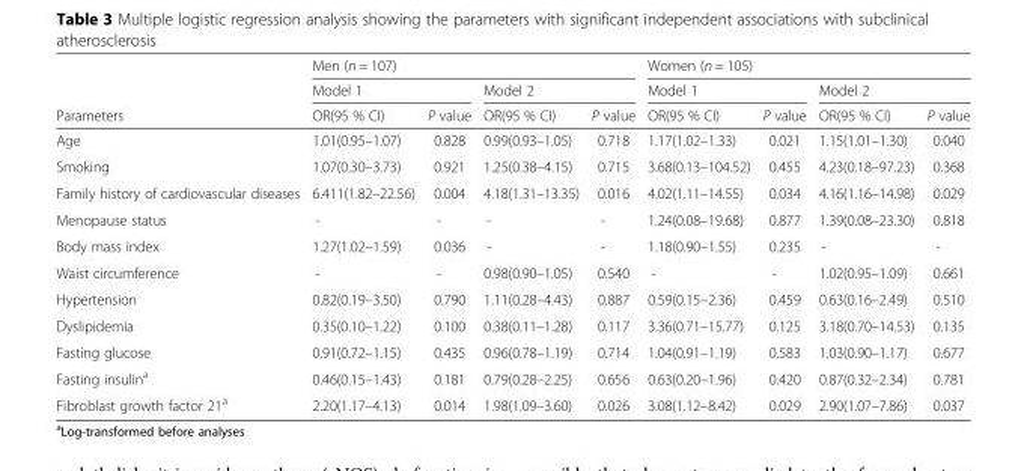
<table><thead><tr><td rowspan="3">Parameters</td><td colspan="4">Men (n = 107)</td><td colspan="4">Women (n = 105)</td></tr><tr><td colspan="2">Model 1</td><td colspan="2">Model 2</td><td colspan="2">Model 1</td><td colspan="2">Model 2</td></tr><tr><td>OR(95 % CI)</td><td>P value</td><td>OR(95 % CI)</td><td>P value</td><td>OR(95 % CI)</td><td>P value</td><td>OR(95 % CI)</td><td>P value</td></tr></thead><tbody><tr><td>Age</td><td>1.01(0.95–1.07)</td><td>0.828</td><td>0.99(0.93–1.05)</td><td>0.718</td><td>1.17(1.02–1.33)</td><td>0.021</td><td>1.15(1.01–1.30)</td><td>0.040</td></tr><tr><td>Smoking</td><td>1.07(0.30–3.73)</td><td>0.921</td><td>1.25(0.38–4.15)</td><td>0.715</td><td>3.68(0.13–104.52)</td><td>0.455</td><td>4.23(0.18–97.23)</td><td>0.368</td></tr><tr><td>Family history of cardiovascular diseases</td><td>6.411(1.82–22.56)</td><td>0.004</td><td>4.18(1.31–13.35)</td><td>0.016</td><td>4.02(1.11–14.55)</td><td>0.034</td><td>4.16(1.16–14.98)</td><td>0.029</td></tr><tr><td>Menopause status</td><td>-</td><td>-</td><td>-</td><td>-</td><td>1.24(0.08–19.68)</td><td>0.877</td><td>1.39(0.08–23.30)</td><td>0.818</td></tr><tr><td>Body mass index</td><td>1.27(1.02–1.59)</td><td>0.036</td><td>-</td><td>-</td><td>1.18(0.90–1.55)</td><td>0.235</td><td>-</td><td>-</td></tr><tr><td>Waist circumference</td><td>-</td><td>-</td><td>0.98(0.90–1.05)</td><td>0.540</td><td>-</td><td>-</td><td>1.02(0.95–1.09)</td><td>0.661</td></tr><tr><td>Hypertension</td><td>0.82(0.19–3.50)</td><td>0.790</td><td>1.11(0.28–4.43)</td><td>0.887</td><td>0.59(0.15–2.36)</td><td>0.459</td><td>0.63(0.16–2.49)</td><td>0.510</td></tr><tr><td>Dyslipidemia</td><td>0.35(0.10–1.22)</td><td>0.100</td><td>0.38(0.11–1.28)</td><td>0.117</td><td>3.36(0.71–15.77)</td><td>0.125</td><td>3.18(0.70–14.53)</td><td>0.135</td></tr><tr><td>Fasting glucose</td><td>0.91(0.72–1.15)</td><td>0.435</td><td>0.96(0.78–1.19)</td><td>0.714</td><td>1.04(0.91–1.19)</td><td>0.583</td><td>1.03(0.90–1.17)</td><td>0.677</td></tr><tr><td>Fasting insulin<sup>a</sup></td><td>0.46(0.15–1.43)</td><td>0.181</td><td>0.79(0.28–2.25)</td><td>0.656</td><td>0.63(0.20–1.96)</td><td>0.420</td><td>0.87(0.32–2.34)</td><td>0.781</td></tr><tr><td>Fibroblast growth factor 21<sup>a</sup></td><td>2.20(1.17–4.13)</td><td>0.014</td><td>1.98(1.09–3.60)</td><td>0.026</td><td>3.08(1.12–8.42)</td><td>0.029</td><td>2.90(1.07–7.86)</td><td>0.037</td></tr></tbody></table>